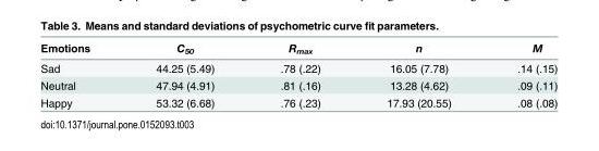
<table><thead><tr><td>Emotions</td><td>C<sub>50</sub></td><td>R<sub>max</sub></td><td>n</td><td>M</td></tr></thead><tbody><tr><td>Sad</td><td>44.25 (5.49)</td><td>.78 (.22)</td><td>16.05 (7.78)</td><td>.14 (.15)</td></tr><tr><td>Neutral</td><td>47.94 (4.91)</td><td>.81 (.16)</td><td>13.28 (4.62)</td><td>.09 (.11)</td></tr><tr><td>Happy</td><td>53.32 (6.68)</td><td>.76 (.23)</td><td>17.93 (20.55)</td><td>.08 (.08)</td></tr></tbody></table>